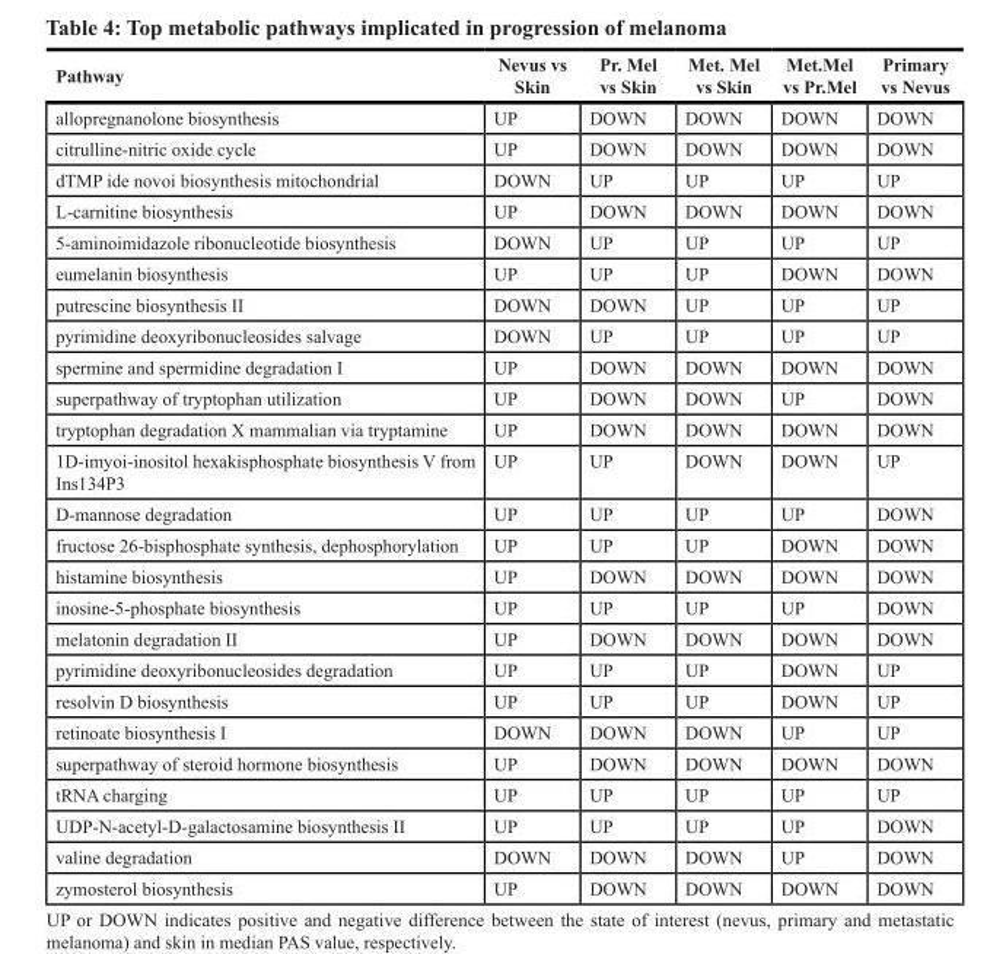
<table><thead><tr><td>Pathway</td><td>Nevus vs Skin</td><td>Pr. Mel vs Skin</td><td>Met. Mel vs Skin</td><td>Met.Mel vs Pr.Mel</td><td>Primary vs Nevus</td></tr></thead><tbody><tr><td>allopregnanolone biosynthesis</td><td>UP</td><td>DOWN</td><td>DOWN</td><td>DOWN</td><td>DOWN</td></tr><tr><td>citrulline-nitric oxide cycle</td><td>UP</td><td>DOWN</td><td>DOWN</td><td>DOWN</td><td>DOWN</td></tr><tr><td>dTMP ide novoi biosynthesis mitochondrial</td><td>DOWN</td><td>UP</td><td>UP</td><td>UP</td><td>UP</td></tr><tr><td>L-carnitine biosynthesis</td><td>UP</td><td>DOWN</td><td>DOWN</td><td>DOWN</td><td>DOWN</td></tr><tr><td>5-aminoimidazole ribonucleotide biosynthesis</td><td>DOWN</td><td>UP</td><td>UP</td><td>UP</td><td>UP</td></tr><tr><td>eumelanin biosynthesis</td><td>UP</td><td>UP</td><td>UP</td><td>DOWN</td><td>DOWN</td></tr><tr><td>putrescine biosynthesis II</td><td>DOWN</td><td>DOWN</td><td>UP</td><td>UP</td><td>UP</td></tr><tr><td>pyrimidine deoxyribonucleosides salvage</td><td>DOWN</td><td>UP</td><td>UP</td><td>UP</td><td>UP</td></tr><tr><td>spermine and spermidine degradation I</td><td>UP</td><td>DOWN</td><td>DOWN</td><td>DOWN</td><td>DOWN</td></tr><tr><td>superpathway of tryptophan utilization</td><td>UP</td><td>DOWN</td><td>DOWN</td><td>UP</td><td>DOWN</td></tr><tr><td>tryptophan degradation X mammalian via tryptamine</td><td>UP</td><td>DOWN</td><td>DOWN</td><td>DOWN</td><td>DOWN</td></tr><tr><td>1D-imyoi-inositol hexakisphosphate biosynthesis V from Ins134P3</td><td>UP</td><td>UP</td><td>DOWN</td><td>DOWN</td><td>UP</td></tr><tr><td>D-mannose degradation</td><td>UP</td><td>UP</td><td>UP</td><td>UP</td><td>DOWN</td></tr><tr><td>fructose 26-bisphosphate synthesis, dephosphorylation</td><td>UP</td><td>UP</td><td>UP</td><td>DOWN</td><td>DOWN</td></tr><tr><td>histamine biosynthesis</td><td>UP</td><td>DOWN</td><td>DOWN</td><td>DOWN</td><td>DOWN</td></tr><tr><td>inosine-5-phosphate biosynthesis</td><td>UP</td><td>UP</td><td>UP</td><td>UP</td><td>DOWN</td></tr><tr><td>melatonin degradation II</td><td>UP</td><td>DOWN</td><td>DOWN</td><td>DOWN</td><td>DOWN</td></tr><tr><td>pyrimidine deoxyribonucleosides degradation</td><td>UP</td><td>UP</td><td>UP</td><td>DOWN</td><td>UP</td></tr><tr><td>resolvin D biosynthesis</td><td>UP</td><td>UP</td><td>UP</td><td>DOWN</td><td>UP</td></tr><tr><td>retinoate biosynthesis I</td><td>DOWN</td><td>DOWN</td><td>DOWN</td><td>UP</td><td>UP</td></tr><tr><td>superpathway of steroid hormone biosynthesis</td><td>UP</td><td>DOWN</td><td>DOWN</td><td>DOWN</td><td>DOWN</td></tr><tr><td>tRNA charging</td><td>UP</td><td>UP</td><td>UP</td><td>UP</td><td>UP</td></tr><tr><td>UDP-N-acetyl-D-galactosamine biosynthesis II</td><td>UP</td><td>UP</td><td>UP</td><td>UP</td><td>DOWN</td></tr><tr><td>valine degradation</td><td>DOWN</td><td>DOWN</td><td>DOWN</td><td>UP</td><td>DOWN</td></tr><tr><td>zymosterol biosynthesis</td><td>UP</td><td>DOWN</td><td>DOWN</td><td>DOWN</td><td>DOWN</td></tr></tbody></table>